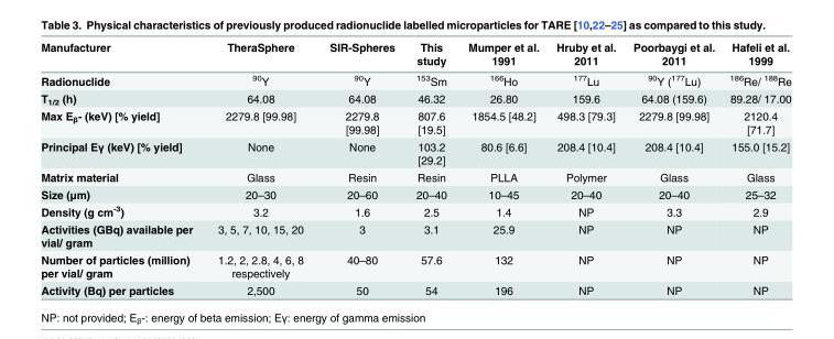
<table><thead><tr><td>Manufacturer</td><td>TheraSphere</td><td>SIR-Spheres</td><td>This study</td><td>Mumper et al. 1991</td><td>Hruby et al. 2011</td><td>Poorbaygi et al. 2011</td><td>Hafeli et al. 1999</td></tr></thead><tbody><tr><td>Radionuclide</td><td><sup>90</sup>Y</td><td><sup>90</sup>Y</td><td><sup>153</sup>Sm</td><td><sup>166</sup>Ho</td><td><sup>177</sup>Lu</td><td><sup>90</sup>Y (<sup>177</sup>Lu)</td><td><sup>186</sup>Re/ <sup>188</sup>Re</td></tr><tr><td>T<sub>1/2</sub> (h)</td><td>64.08</td><td>64.08</td><td>46.32</td><td>26.80</td><td>159.6</td><td>64.08 (159.6)</td><td>89.28/ 17.00</td></tr><tr><td>Max Eβ- (keV) [% yield]</td><td>2279.8 [99.98]</td><td>2279.8 [99.98]</td><td>807.6 [19.5]</td><td>1854.5 [48.2]</td><td>498.3 [79.3]</td><td>2279.8 [99.98]</td><td>2120.4 [71.7]</td></tr><tr><td>Principal Eγ (keV) [% yield]</td><td>None</td><td>None</td><td>103.2 [29.2]</td><td>80.6 [6.6]</td><td>208.4 [10.4]</td><td>208.4 [10.4]</td><td>155.0 [15.2]</td></tr><tr><td>Matrix material</td><td>Glass</td><td>Resin</td><td>Resin</td><td>PLLA</td><td>Polymer</td><td>Glass</td><td>Glass</td></tr><tr><td>Size (μm)</td><td>20–30</td><td>20–60</td><td>20–40</td><td>10–45</td><td>20–40</td><td>20–40</td><td>25–32</td></tr><tr><td>Density (g cm<sup>-3</sup>)</td><td>3.2</td><td>1.6</td><td>2.5</td><td>1.4</td><td>NP</td><td>3.3</td><td>2.9</td></tr><tr><td>Activities (GBq) available per vial/ gram</td><td>3, 5, 7, 10, 15, 20</td><td>3</td><td>3.1</td><td>25.9</td><td>NP</td><td>NP</td><td>NP</td></tr><tr><td>Number of particles (million) per vial/ gram</td><td>1.2, 2, 2.8, 4, 6, 8 respectively</td><td>40–80</td><td>57.6</td><td>132</td><td>NP</td><td>NP</td><td>NP</td></tr><tr><td>Activity (Bq) per particles</td><td>2,500</td><td>50</td><td>54</td><td>196</td><td>NP</td><td>NP</td><td>NP</td></tr></tbody></table>